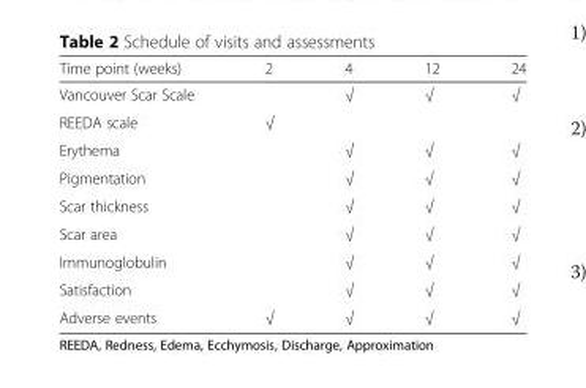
<table><thead><tr><td>Time point (weeks)</td><td>2</td><td>4</td><td>12</td><td>24</td></tr></thead><tbody><tr><td>Vancouver Scar Scale</td><td></td><td>√</td><td>√</td><td>√</td></tr><tr><td>REEDA scale</td><td>√</td><td></td><td></td><td></td></tr><tr><td>Erythema</td><td></td><td>√</td><td>√</td><td>√</td></tr><tr><td>Pigmentation</td><td></td><td>√</td><td>√</td><td>√</td></tr><tr><td>Scar thickness</td><td></td><td>√</td><td>√</td><td>√</td></tr><tr><td>Scar area</td><td></td><td>√</td><td>√</td><td>√</td></tr><tr><td>Immunoglobulin</td><td></td><td>√</td><td>√</td><td>√</td></tr><tr><td>Satisfaction</td><td></td><td>√</td><td>√</td><td>√</td></tr><tr><td>Adverse events</td><td>√</td><td>√</td><td>√</td><td>√</td></tr></tbody></table>